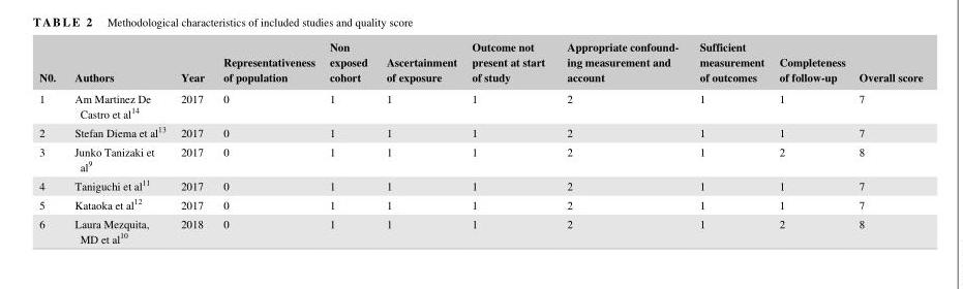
<table><thead><tr><td>N0.</td><td>Authors</td><td>Year</td><td>Representativeness of population</td><td>Non exposed cohort</td><td>Ascertainment of exposure</td><td>Outcome not present at start of study</td><td>Appropriate confound- ing measurement and account</td><td>Sufficient measurement of outcomes</td><td>Completeness of follow‐up</td><td>Overall score</td></tr></thead><tbody><tr><td>1</td><td>Am Martinez De Castro et al<sup>14</sup></td><td>2017</td><td>0</td><td>1</td><td>1</td><td>1</td><td>2</td><td>1</td><td>1</td><td>7</td></tr><tr><td>2</td><td>Stefan Diema et al<sup>13</sup></td><td>2017</td><td>0</td><td>1</td><td>1</td><td>1</td><td>2</td><td>1</td><td>1</td><td>7</td></tr><tr><td>3</td><td>Junko Tanizaki et al<sup>9</sup></td><td>2017</td><td>0</td><td>1</td><td>1</td><td>1</td><td>2</td><td>1</td><td>2</td><td>8</td></tr><tr><td>4</td><td>Taniguchi et al<sup>11</sup></td><td>2017</td><td>0</td><td>1</td><td>1</td><td>1</td><td>2</td><td>1</td><td>1</td><td>7</td></tr><tr><td>5</td><td>Kataoka et al<sup>12</sup></td><td>2017</td><td>0</td><td>1</td><td>1</td><td>1</td><td>2</td><td>1</td><td>1</td><td>7</td></tr><tr><td>6</td><td>Laura Mezquita, MD et al<sup>10</sup></td><td>2018</td><td>0</td><td>1</td><td>1</td><td>1</td><td>2</td><td>1</td><td>2</td><td>8</td></tr></tbody></table>